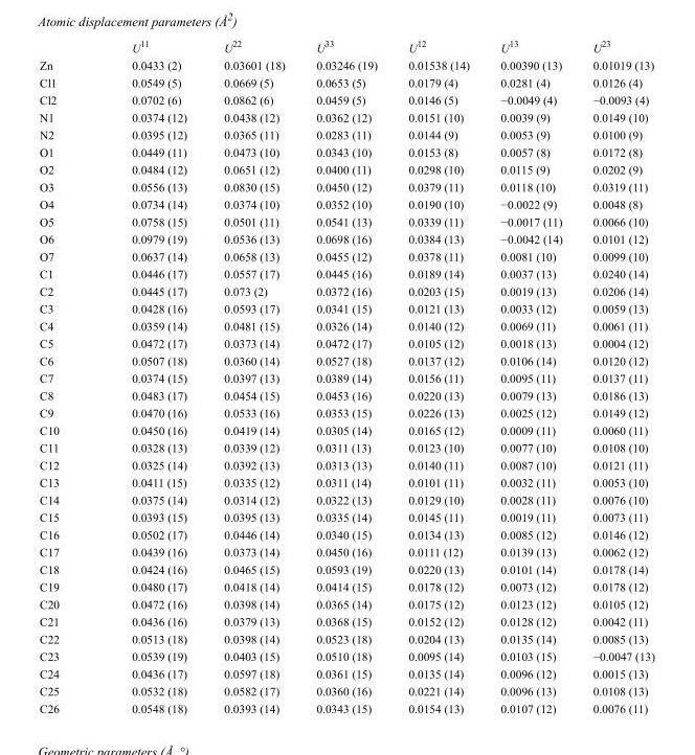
<table><thead><tr><td></td><td>U<sup>11</sup></td><td>U<sup>22</sup></td><td>U<sup>33</sup></td><td>U<sup>12</sup></td><td>U<sup>13</sup></td><td>U<sup>23</sup></td></tr></thead><tbody><tr><td>Zn</td><td>0.0433 (2)</td><td>0.03601 (18)</td><td>0.03246 (19)</td><td>0.01538 (14)</td><td>0.00390 (13)</td><td>0.01019 (13)</td></tr><tr><td>Cl1</td><td>0.0549 (5)</td><td>0.0669 (5)</td><td>0.0653 (5)</td><td>0.0179 (4)</td><td>0.0281 (4)</td><td>0.0126 (4)</td></tr><tr><td>Cl2</td><td>0.0702 (6)</td><td>0.0862 (6)</td><td>0.0459 (5)</td><td>0.0146 (5)</td><td>−0.0049 (4)</td><td>−0.0093 (4)</td></tr><tr><td>N1</td><td>0.0374 (12)</td><td>0.0438 (12)</td><td>0.0362 (12)</td><td>0.0151 (10)</td><td>0.0039 (9)</td><td>0.0149 (10)</td></tr><tr><td>N2</td><td>0.0395 (12)</td><td>0.0365 (11)</td><td>0.0283 (11)</td><td>0.0144 (9)</td><td>0.0053 (9)</td><td>0.0100 (9)</td></tr><tr><td>O1</td><td>0.0449 (11)</td><td>0.0473 (10)</td><td>0.0343 (10)</td><td>0.0153 (8)</td><td>0.0057 (8)</td><td>0.0172 (8)</td></tr><tr><td>O2</td><td>0.0484 (12)</td><td>0.0651 (12)</td><td>0.0400 (11)</td><td>0.0298 (10)</td><td>0.0115 (9)</td><td>0.0202 (9)</td></tr><tr><td>O3</td><td>0.0556 (13)</td><td>0.0830 (15)</td><td>0.0450 (12)</td><td>0.0379 (11)</td><td>0.0118 (10)</td><td>0.0319 (11)</td></tr><tr><td>O4</td><td>0.0734 (14)</td><td>0.0374 (10)</td><td>0.0352 (10)</td><td>0.0190 (10)</td><td>−0.0022 (9)</td><td>0.0048 (8)</td></tr><tr><td>O5</td><td>0.0758 (15)</td><td>0.0501 (11)</td><td>0.0541 (13)</td><td>0.0339 (11)</td><td>−0.0017 (11)</td><td>0.0066 (10)</td></tr><tr><td>O6</td><td>0.0979 (19)</td><td>0.0536 (13)</td><td>0.0698 (16)</td><td>0.0384 (13)</td><td>−0.0042 (14)</td><td>0.0101 (12)</td></tr><tr><td>O7</td><td>0.0637 (14)</td><td>0.0658 (13)</td><td>0.0455 (12)</td><td>0.0378 (11)</td><td>0.0081 (10)</td><td>0.0099 (10)</td></tr><tr><td>C1</td><td>0.0446 (17)</td><td>0.0557 (17)</td><td>0.0445 (16)</td><td>0.0189 (14)</td><td>0.0037 (13)</td><td>0.0240 (14)</td></tr><tr><td>C2</td><td>0.0445 (17)</td><td>0.073 (2)</td><td>0.0372 (16)</td><td>0.0203 (15)</td><td>0.0019 (13)</td><td>0.0206 (14)</td></tr><tr><td>C3</td><td>0.0428 (16)</td><td>0.0593 (17)</td><td>0.0341 (15)</td><td>0.0121 (13)</td><td>0.0033 (12)</td><td>0.0059 (13)</td></tr><tr><td>C4</td><td>0.0359 (14)</td><td>0.0481 (15)</td><td>0.0326 (14)</td><td>0.0140 (12)</td><td>0.0069 (11)</td><td>0.0061 (11)</td></tr><tr><td>C5</td><td>0.0472 (17)</td><td>0.0373 (14)</td><td>0.0472 (17)</td><td>0.0105 (12)</td><td>0.0018 (13)</td><td>0.0004 (12)</td></tr><tr><td>C6</td><td>0.0507 (18)</td><td>0.0360 (14)</td><td>0.0527 (18)</td><td>0.0137 (12)</td><td>0.0106 (14)</td><td>0.0120 (12)</td></tr><tr><td>C7</td><td>0.0374 (15)</td><td>0.0397 (13)</td><td>0.0389 (14)</td><td>0.0156 (11)</td><td>0.0095 (11)</td><td>0.0137 (11)</td></tr><tr><td>C8</td><td>0.0483 (17)</td><td>0.0454 (15)</td><td>0.0453 (16)</td><td>0.0220 (13)</td><td>0.0079 (13)</td><td>0.0186 (13)</td></tr><tr><td>C9</td><td>0.0470 (16)</td><td>0.0533 (16)</td><td>0.0353 (15)</td><td>0.0226 (13)</td><td>0.0025 (12)</td><td>0.0149 (12)</td></tr><tr><td>C10</td><td>0.0450 (16)</td><td>0.0419 (14)</td><td>0.0305 (14)</td><td>0.0165 (12)</td><td>0.0009 (11)</td><td>0.0060 (11)</td></tr><tr><td>C11</td><td>0.0328 (13)</td><td>0.0339 (12)</td><td>0.0311 (13)</td><td>0.0123 (10)</td><td>0.0077 (10)</td><td>0.0108 (10)</td></tr><tr><td>C12</td><td>0.0325 (14)</td><td>0.0392 (13)</td><td>0.0313 (13)</td><td>0.0140 (11)</td><td>0.0087 (10)</td><td>0.0121 (11)</td></tr><tr><td>C13</td><td>0.0411 (15)</td><td>0.0335 (12)</td><td>0.0311 (14)</td><td>0.0101 (11)</td><td>0.0032 (11)</td><td>0.0053 (10)</td></tr><tr><td>C14</td><td>0.0375 (14)</td><td>0.0314 (12)</td><td>0.0322 (13)</td><td>0.0129 (10)</td><td>0.0028 (11)</td><td>0.0076 (10)</td></tr><tr><td>C15</td><td>0.0393 (15)</td><td>0.0395 (13)</td><td>0.0335 (14)</td><td>0.0145 (11)</td><td>0.0019 (11)</td><td>0.0073 (11)</td></tr><tr><td>C16</td><td>0.0502 (17)</td><td>0.0446 (14)</td><td>0.0340 (15)</td><td>0.0134 (13)</td><td>0.0085 (12)</td><td>0.0146 (12)</td></tr><tr><td>C17</td><td>0.0439 (16)</td><td>0.0373 (14)</td><td>0.0450 (16)</td><td>0.0111 (12)</td><td>0.0139 (13)</td><td>0.0062 (12)</td></tr><tr><td>C18</td><td>0.0424 (16)</td><td>0.0465 (15)</td><td>0.0593 (19)</td><td>0.0220 (13)</td><td>0.0101 (14)</td><td>0.0178 (14)</td></tr><tr><td>C19</td><td>0.0480 (17)</td><td>0.0418 (14)</td><td>0.0414 (15)</td><td>0.0178 (12)</td><td>0.0073 (12)</td><td>0.0178 (12)</td></tr><tr><td>C20</td><td>0.0472 (16)</td><td>0.0398 (14)</td><td>0.0365 (14)</td><td>0.0175 (12)</td><td>0.0123 (12)</td><td>0.0105 (12)</td></tr><tr><td>C21</td><td>0.0436 (16)</td><td>0.0379 (13)</td><td>0.0368 (15)</td><td>0.0152 (12)</td><td>0.0128 (12)</td><td>0.0042 (11)</td></tr><tr><td>C22</td><td>0.0513 (18)</td><td>0.0398 (14)</td><td>0.0523 (18)</td><td>0.0204 (13)</td><td>0.0135 (14)</td><td>0.0085 (13)</td></tr><tr><td>C23</td><td>0.0539 (19)</td><td>0.0403 (15)</td><td>0.0510 (18)</td><td>0.0095 (14)</td><td>0.0103 (15)</td><td>−0.0047 (13)</td></tr><tr><td>C24</td><td>0.0436 (17)</td><td>0.0597 (18)</td><td>0.0361 (15)</td><td>0.0135 (14)</td><td>0.0096 (12)</td><td>0.0015 (13)</td></tr><tr><td>C25</td><td>0.0532 (18)</td><td>0.0582 (17)</td><td>0.0360 (16)</td><td>0.0221 (14)</td><td>0.0096 (13)</td><td>0.0108 (13)</td></tr><tr><td>C26</td><td>0.0548 (18)</td><td>0.0393 (14)</td><td>0.0343 (15)</td><td>0.0154 (13)</td><td>0.0107 (12)</td><td>0.0076 (11)</td></tr></tbody></table>